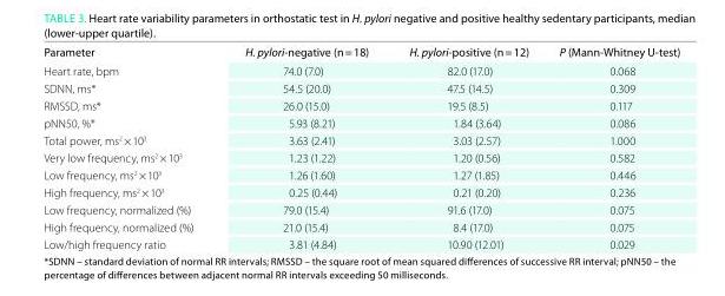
<table><thead><tr><td>Parameter</td><td>H. pylori-negative (n = 18)</td><td>H. pylori-positive (n = 12)</td><td>P (Mann-Whitney u-test)</td></tr></thead><tbody><tr><td>Heart rate, bpm</td><td>74.0 (7.0)</td><td>82.0 (17.0)</td><td>0.068</td></tr><tr><td>SDNN, ms*</td><td>54.5 (20.0)</td><td>47.5 (14.5)</td><td>0.309</td></tr><tr><td>RMSSD, ms*</td><td>26.0 (15.0)</td><td>19.5 (8.5)</td><td>0.117</td></tr><tr><td>pNN50, %*</td><td>5.93 (8.21)</td><td>1.84 (3.64)</td><td>0.086</td></tr><tr><td>Total power, ms<sup>2</sup> × 10<sup>3</sup></td><td>3.63 (2.41)</td><td>3.03 (2.57)</td><td>1.000</td></tr><tr><td>Very low frequency, ms<sup>2</sup> × 10<sup>3</sup></td><td>1.23 (1.22)</td><td>1.20 (0.56)</td><td>0.582</td></tr><tr><td>Low frequency, ms<sup>2</sup> × 10<sup>3</sup></td><td>1.26 (1.60)</td><td>1.27 (1.85)</td><td>0.446</td></tr><tr><td>High frequency, ms<sup>2</sup> × 10<sup>3</sup></td><td>0.25 (0.44)</td><td>0.21 (0.20)</td><td>0.236</td></tr><tr><td>Low frequency, normalized (%)</td><td>79.0 (15.4)</td><td>91.6 (17.0)</td><td>0.075</td></tr><tr><td>High frequency, normalized (%)</td><td>21.0 (15.4)</td><td>8.4 (17.0)</td><td>0.075</td></tr><tr><td>Low/high frequency ratio</td><td>3.81 (4.84)</td><td>10.90 (12.01)</td><td>0.029</td></tr></tbody></table>